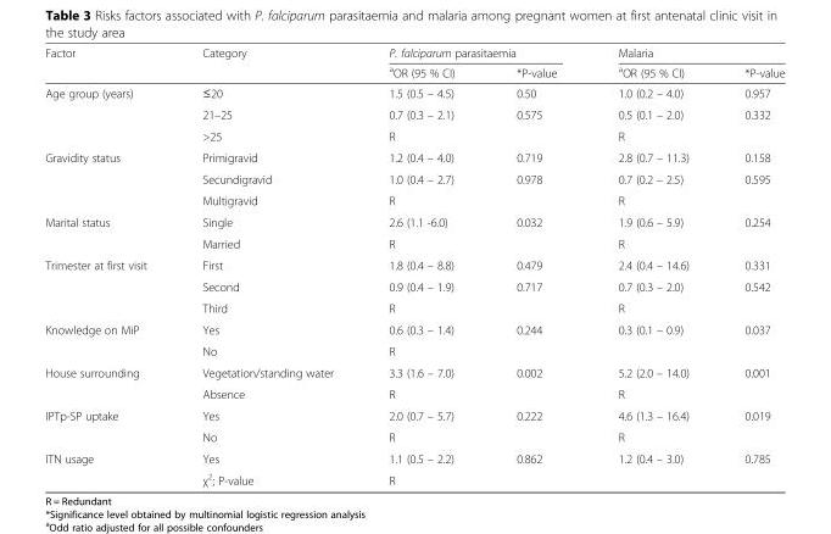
<table><thead><tr><td rowspan="2">Factor</td><td rowspan="2">Category</td><td colspan="2">P. falciparum parasitaemia</td><td colspan="2">Malaria</td></tr><tr><td><sup>a</sup>OR (95 % CI)</td><td>*P-value</td><td><sup>a</sup>OR (95 % CI)</td><td>*P-value</td></tr></thead><tbody><tr><td rowspan="3">Age group (years)</td><td>≤20</td><td>1.5 (0.5 – 4.5)</td><td>0.50</td><td>1.0 (0.2 – 4.0)</td><td>0.957</td></tr><tr><td>21–25</td><td>0.7 (0.3 – 2.1)</td><td>0.575</td><td>0.5 (0.1 – 2.0)</td><td>0.332</td></tr><tr><td>&gt;25</td><td>R</td><td></td><td>R</td><td></td></tr><tr><td rowspan="3">Gravidity status</td><td>Primigravid</td><td>1.2 (0.4 – 4.0)</td><td>0.719</td><td>2.8 (0.7 – 11.3)</td><td>0.158</td></tr><tr><td>Secundigravid</td><td>1.0 (0.4 – 2.7)</td><td>0.978</td><td>0.7 (0.2 – 2.5)</td><td>0.595</td></tr><tr><td>Multigravid</td><td>R</td><td></td><td>R</td><td></td></tr><tr><td rowspan="2">Marital status</td><td>Single</td><td>2.6 (1.1 -6.0)</td><td>0.032</td><td>1.9 (0.6 – 5.9)</td><td>0.254</td></tr><tr><td>Married</td><td>R</td><td></td><td>R</td><td></td></tr><tr><td rowspan="3">Trimester at first visit</td><td>First</td><td>1.8 (0.4 – 8.8)</td><td>0.479</td><td>2.4 (0.4 – 14.6)</td><td>0.331</td></tr><tr><td>Second</td><td>0.9 (0.4 – 1.9)</td><td>0.717</td><td>0.7 (0.3 – 2.0)</td><td>0.542</td></tr><tr><td>Third</td><td>R</td><td></td><td>R</td><td></td></tr><tr><td rowspan="2">Knowledge on MiP</td><td>Yes</td><td>0.6 (0.3 – 1.4)</td><td>0.244</td><td>0.3 (0.1 – 0.9)</td><td>0.037</td></tr><tr><td>No</td><td>R</td><td></td><td></td><td></td></tr><tr><td rowspan="2">House surrounding</td><td>Vegetation/standing water</td><td>3.3 (1.6 – 7.0)</td><td>0.002</td><td>5.2 (2.0 – 14.0)</td><td>0.001</td></tr><tr><td>Absence</td><td>R</td><td></td><td>R</td><td></td></tr><tr><td rowspan="2">IPTp-SP uptake</td><td>Yes</td><td>2.0 (0.7 – 5.7)</td><td>0.222</td><td>4.6 (1.3 – 16.4)</td><td>0.019</td></tr><tr><td>No</td><td>R</td><td></td><td>R</td><td></td></tr><tr><td rowspan="2">ITN usage</td><td>Yes</td><td>1.1 (0.5 – 2.2)</td><td>0.862</td><td>1.2 (0.4 – 3.0)</td><td>0.785</td></tr><tr><td>χ<sup>2</sup>; P-value</td><td>R</td><td></td><td></td><td></td></tr></tbody></table>